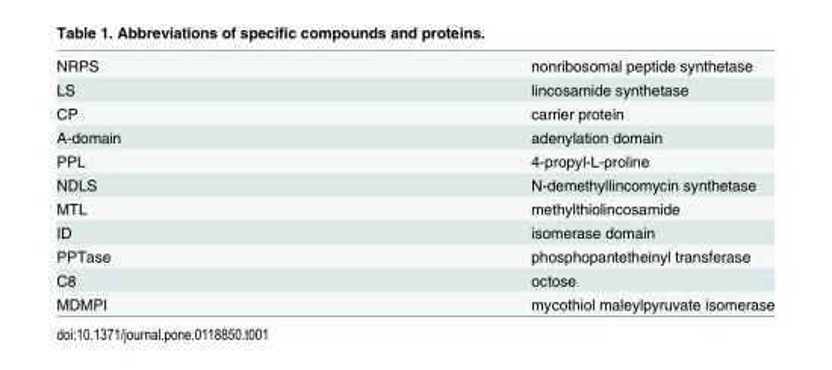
<table><tbody><tr><td>NRPS</td><td>nonribosomal peptide synthetase</td></tr><tr><td>LS</td><td>lincosamide synthetase</td></tr><tr><td>CP</td><td>carrier protein</td></tr><tr><td>A-domain</td><td>adenylation domain</td></tr><tr><td>PPL</td><td>4-propyl-L-proline</td></tr><tr><td>NDLS</td><td>N-demethyllincomycin synthetase</td></tr><tr><td>MTL</td><td>methylthiolincosamide</td></tr><tr><td>ID</td><td>isomerase domain</td></tr><tr><td>PPTase</td><td>phosphopantetheinyl transferase</td></tr><tr><td>C8</td><td>octose</td></tr><tr><td>MDMPI</td><td>mycothiol maleylpyruvate isomerase</td></tr></tbody></table>